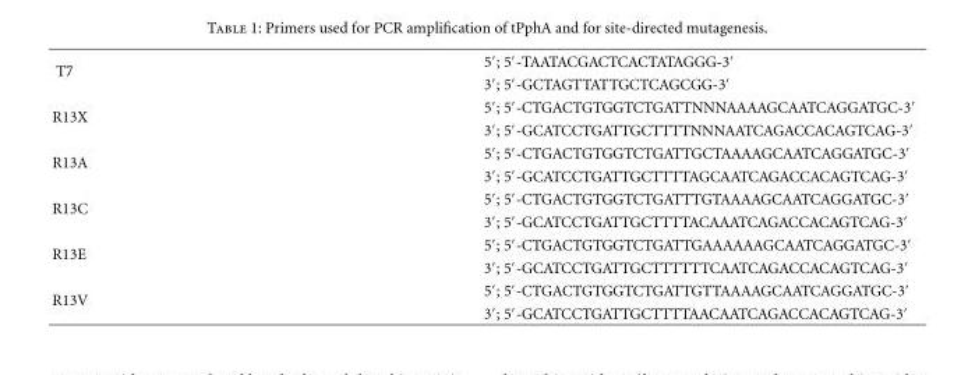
<table><tbody><tr><td rowspan="2">T7</td><td>5′; 5′-TAATACGACTCACTATAGGG-3′</td></tr><tr><td>3′; 5′-GCTAGTTATTGCTCAGCGG-3′</td></tr><tr><td rowspan="2">R13X</td><td>5′; 5′-CTGACTGTGGTCTGATTNNNAAAAGCAATCAGGATGC-3′</td></tr><tr><td>3′; 5′-GCATCCTGATTGCTTTTNNNAATCAGACCACAGTCAG-3′</td></tr><tr><td rowspan="2">R13A</td><td>5′; 5′-CTGACTGTGGTCTGATTGCTAAAAGCAATCAGGATGC-3′</td></tr><tr><td>3′; 5′-GCATCCTGATTGCTTTTAGCAATCAGACCACAGTCAG-3′</td></tr><tr><td rowspan="2">R13C</td><td>5′; 5′-CTGACTGTGGTCTGATTTGTAAAAGCAATCAGGATGC-3′</td></tr><tr><td>3′; 5′-GCATCCTGATTGCTTTTACAAATCAGACCACAGTCAG-3′</td></tr><tr><td rowspan="2">R13E</td><td>5′; 5′-CTGACTGTGGTCTGATTGAAAAAAGCAATCAGGATGC-3′</td></tr><tr><td>3′; 5′-GCATCCTGATTGCTTTTTTCAATCAGACCACAGTCAG-3′</td></tr><tr><td rowspan="2">R13V</td><td>5′; 5′-CTGACTGTGGTCTGATTGTTAAAAGCAATCAGGATGC-3′</td></tr><tr><td>3′; 5′-GCATCCTGATTGCTTTTAACAATCAGACCACAGTCAG-3′</td></tr></tbody></table>